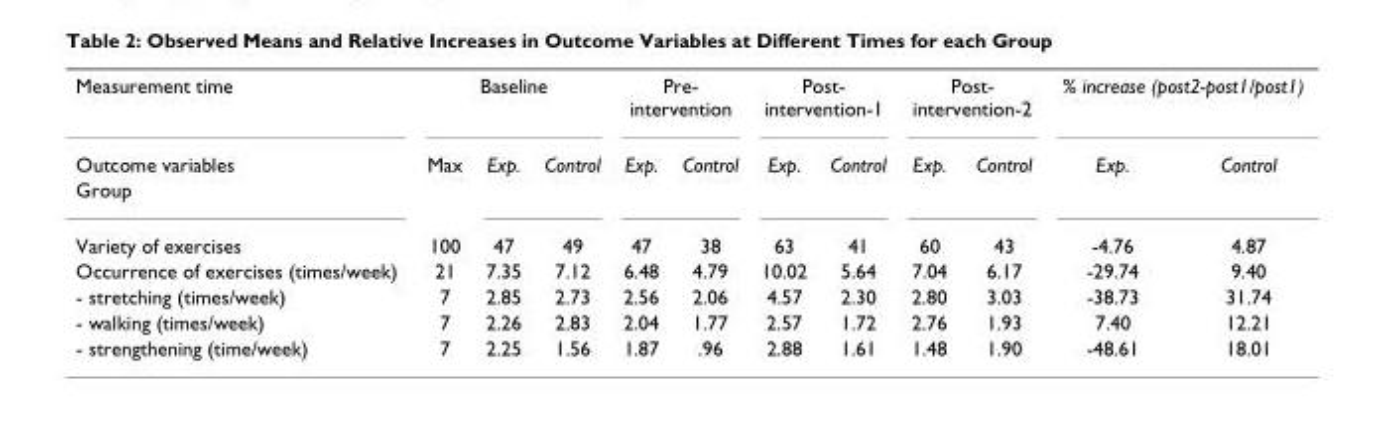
<table><tbody><tr><td>Measurement time</td><td colspan="3">Baseline</td><td colspan="2">Pre- intervention</td><td colspan="2">Post- intervention-1</td><td colspan="2">Post- intervention-2</td><td colspan="2">% increase (post2-post1/post1)</td></tr><tr><td>Outcome variables</td><td>Max</td><td>Exp.</td><td>Control</td><td>Exp.</td><td>Control</td><td>Exp.</td><td>Control</td><td>Exp.</td><td>Control</td><td>Exp.</td><td>Control</td></tr><tr><td colspan="12">Group</td></tr><tr><td>Variety of exercises</td><td>100</td><td>47</td><td>49</td><td>47</td><td>38</td><td>63</td><td>41</td><td>60</td><td>43</td><td>-4.76</td><td>4.87</td></tr><tr><td>Occurrence of exercises (times/week)</td><td>21</td><td>7.35</td><td>7.12</td><td>6.48</td><td>4.79</td><td>10.02</td><td>5.64</td><td>7.04</td><td>6.17</td><td>-29.74</td><td>9.40</td></tr><tr><td>- stretching (times/week)</td><td>7</td><td>2.85</td><td>2.73</td><td>2.56</td><td>2.06</td><td>4.57</td><td>2.30</td><td>2.80</td><td>3.03</td><td>-38.73</td><td>31.74</td></tr><tr><td>- walking (times/week)</td><td>7</td><td>2.26</td><td>2.83</td><td>2.04</td><td>1.77</td><td>2.57</td><td>1.72</td><td>2.76</td><td>1.93</td><td>7.40</td><td>12.21</td></tr><tr><td>- strengthening (time/week)</td><td>7</td><td>2.25</td><td>1.56</td><td>1.87</td><td>.96</td><td>2.88</td><td>1.61</td><td>1.48</td><td>1.90</td><td>-48.61</td><td>18.01</td></tr></tbody></table>